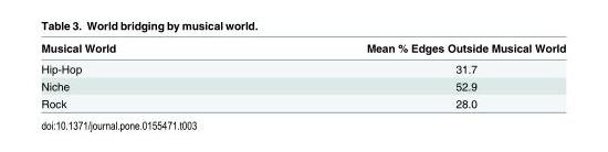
<table><thead><tr><td>Musical World</td><td>Mean % Edges Outside Musical World</td></tr></thead><tbody><tr><td>Hip-Hop</td><td>31.7</td></tr><tr><td>Niche</td><td>52.9</td></tr><tr><td>Rock</td><td>28.0</td></tr></tbody></table>